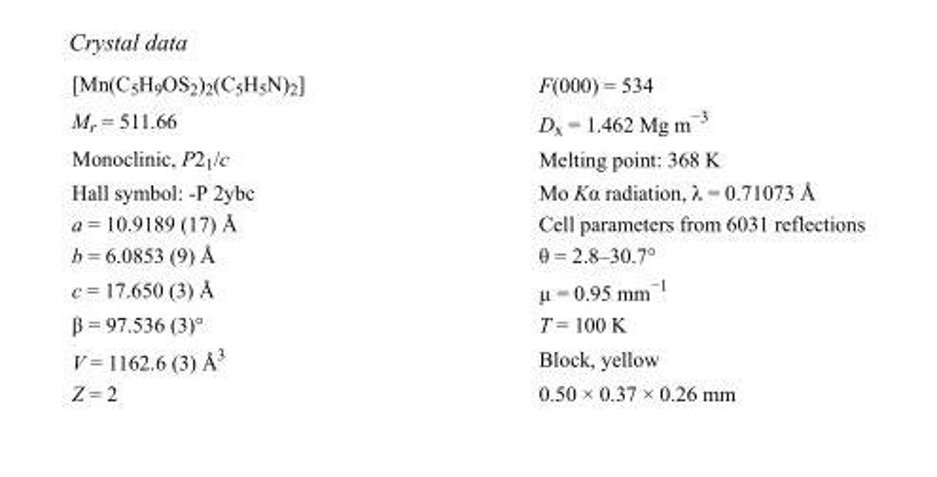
<table><tbody><tr><td>[Mn(C<sub>5</sub>H<sub>9</sub>OS<sub>2</sub>)<sub>2</sub>(C<sub>5</sub>H<sub>5</sub>N)<sub>2</sub>]</td><td>F(000) = 534</td></tr><tr><td>M<sub>r</sub> = 511.66</td><td>D<sub>x</sub> = 1.462 Mg m<sup>−3</sup></td></tr><tr><td>Monoclinic, P2<sub>1</sub>/c</td><td>Melting point: 368 K</td></tr><tr><td>Hall symbol: -P 2ybc</td><td>Mo Kα radiation, λ = 0.71073 Å</td></tr><tr><td>a = 10.9189 (17) Å</td><td>Cell parameters from 6031 reflections</td></tr><tr><td>b = 6.0853 (9) Å</td><td>θ = 2.8–30.7°</td></tr><tr><td>c = 17.650 (3) Å</td><td>µ = 0.95 mm<sup>−1</sup></td></tr><tr><td>β = 97.536 (3)°</td><td>T = 100 K</td></tr><tr><td>V = 1162.6 (3) Å<sup>3</sup></td><td>Block, yellow</td></tr><tr><td>Z = 2</td><td>0.50 × 0.37 × 0.26 mm</td></tr></tbody></table>